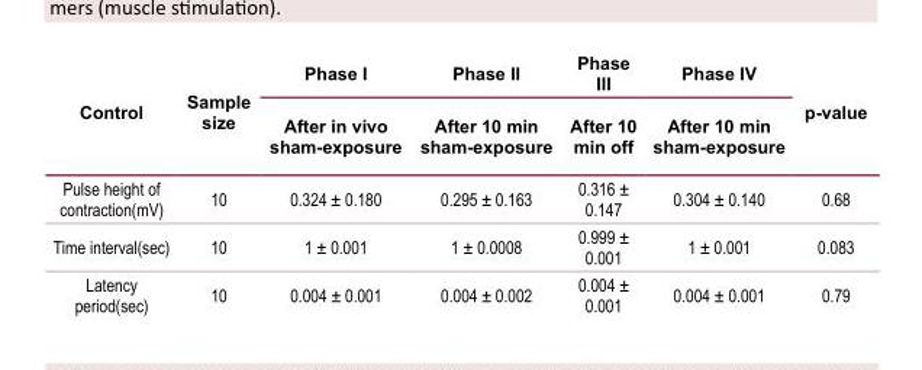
<table><thead><tr><td rowspan="2">Control</td><td rowspan="2">Sample size</td><td rowspan="2">Phase I After in vivo sham-exposure</td><td rowspan="2">Phase II After 10 min sham-exposure</td><td rowspan="2">Phase III After 10 min off</td><td rowspan="2">Phase IV After 10 min sham-exposure</td><td rowspan="2">p-value</td></tr><tr></tr></thead><tbody><tr><td>Pulse height of contraction(mV)</td><td>10</td><td>0.324 ± 0.180</td><td>0.295 ± 0.163</td><td>0.316 ± 0.147</td><td>0.304 ± 0.140</td><td>0.68</td></tr><tr><td>Time interval(sec)</td><td>10</td><td>1 ± 0.001</td><td>1 ± 0.0008</td><td>0.999 ± 0.001</td><td>1 ± 0.001</td><td>0.083</td></tr><tr><td>Latency period(sec)</td><td>10</td><td>0.004 ± 0.001</td><td>0.004 ± 0.002</td><td>0.004 ± 0.001</td><td>0.004 ± 0.001</td><td>0.79</td></tr></tbody></table>